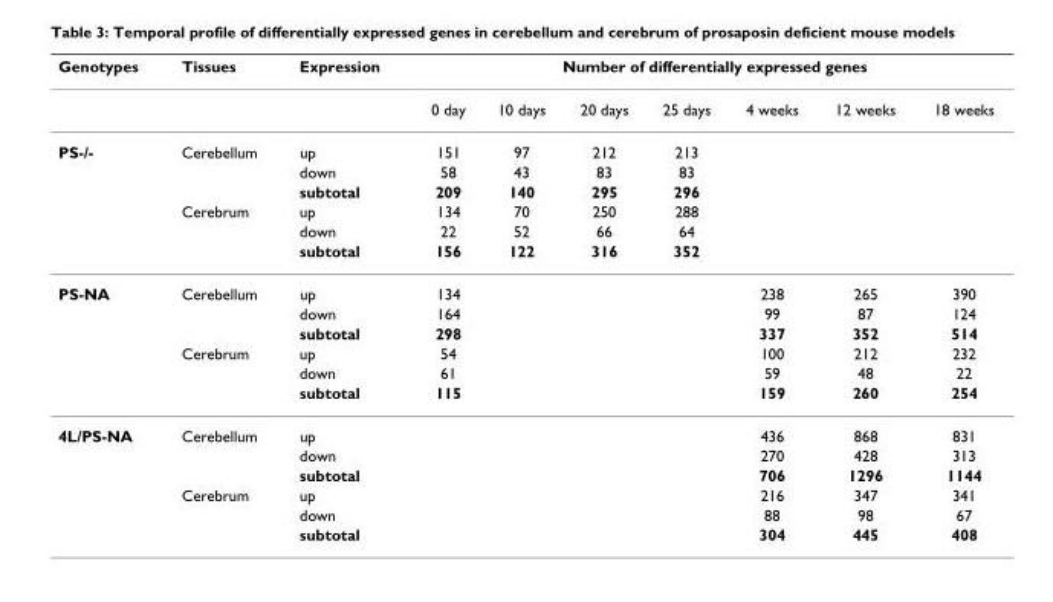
<table><thead><tr><td rowspan="2">Genotypes</td><td rowspan="2">Tissues</td><td rowspan="2">Expression</td><td colspan="7">Number of differentially expressed genes</td></tr><tr><td>0 day</td><td>10 days</td><td>20 days</td><td>25 days</td><td>4 weeks</td><td>12 weeks</td><td>18 weeks</td></tr></thead><tbody><tr><td rowspan="6">PS-/-</td><td>Cerebellum</td><td>up</td><td>151</td><td>97</td><td>212</td><td>213</td><td></td><td></td><td></td></tr><tr><td></td><td>down</td><td>58</td><td>43</td><td>83</td><td>83</td><td></td><td></td><td></td></tr><tr><td></td><td>subtotal</td><td>209</td><td>140</td><td>295</td><td>296</td><td></td><td></td><td></td></tr><tr><td>Cerebrum</td><td>up</td><td>134</td><td>70</td><td>250</td><td>288</td><td></td><td></td><td></td></tr><tr><td></td><td>down</td><td>22</td><td>52</td><td>66</td><td>64</td><td></td><td></td><td></td></tr><tr><td></td><td>subtotal</td><td>156</td><td>122</td><td>316</td><td>352</td><td></td><td></td><td></td></tr><tr><td rowspan="6">PS-NA</td><td>Cerebellum</td><td>up</td><td>134</td><td></td><td></td><td></td><td>238</td><td>265</td><td>390</td></tr><tr><td></td><td>down</td><td>164</td><td></td><td></td><td></td><td>99</td><td>87</td><td>124</td></tr><tr><td></td><td>subtotal</td><td>298</td><td></td><td></td><td></td><td>337</td><td>352</td><td>514</td></tr><tr><td>Cerebrum</td><td>up</td><td>54</td><td></td><td></td><td></td><td>100</td><td>212</td><td>232</td></tr><tr><td></td><td>down</td><td>61</td><td></td><td></td><td></td><td>59</td><td>48</td><td>22</td></tr><tr><td></td><td>subtotal</td><td>115</td><td></td><td></td><td></td><td>159</td><td>260</td><td>254</td></tr><tr><td rowspan="6">4L/PS-NA</td><td>Cerebellum</td><td>up</td><td></td><td></td><td></td><td></td><td>436</td><td>868</td><td>831</td></tr><tr><td></td><td>down</td><td></td><td></td><td></td><td></td><td>270</td><td>428</td><td>313</td></tr><tr><td></td><td>subtotal</td><td></td><td></td><td></td><td></td><td>706</td><td>1296</td><td>1144</td></tr><tr><td>Cerebrum</td><td>up</td><td></td><td></td><td></td><td></td><td>216</td><td>347</td><td>341</td></tr><tr><td></td><td>down</td><td></td><td></td><td></td><td></td><td>88</td><td>98</td><td>67</td></tr><tr><td></td><td>subtotal</td><td></td><td></td><td></td><td></td><td>304</td><td>445</td><td>408</td></tr></tbody></table>